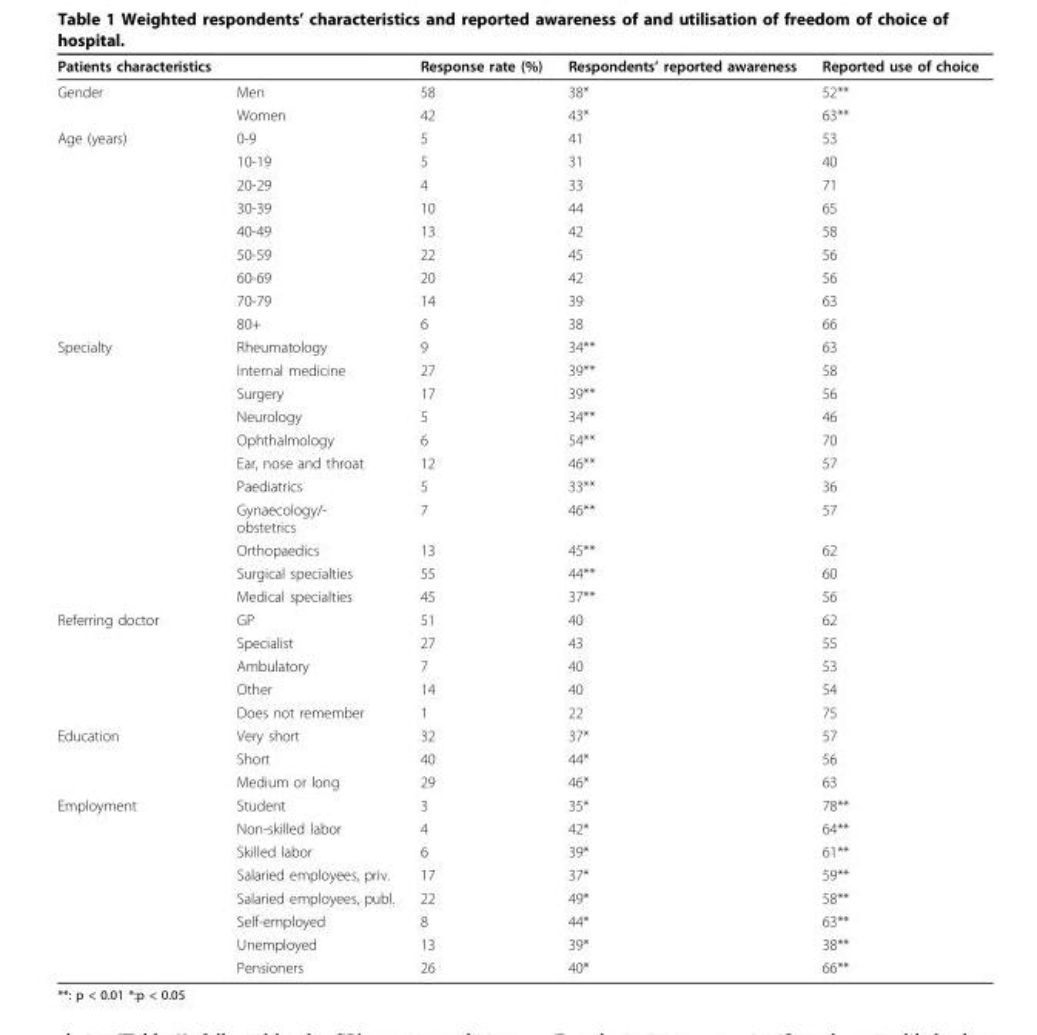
<table><thead><tr><td>Patients characteristics</td><td></td><td>Response rate (%)</td><td>Respondents’ reported awareness</td><td>Reported use of choice</td></tr></thead><tbody><tr><td rowspan="2">Gender</td><td>Men</td><td>58</td><td>38*</td><td>52**</td></tr><tr><td>Women</td><td>42</td><td>43*</td><td>63**</td></tr><tr><td rowspan="9">Age (years)</td><td>0-9</td><td>5</td><td>41</td><td>53</td></tr><tr><td>10-19</td><td>5</td><td>31</td><td>40</td></tr><tr><td>20-29</td><td>4</td><td>33</td><td>71</td></tr><tr><td>30-39</td><td>10</td><td>44</td><td>65</td></tr><tr><td>40-49</td><td>13</td><td>42</td><td>58</td></tr><tr><td>50-59</td><td>22</td><td>45</td><td>56</td></tr><tr><td>60-69</td><td>20</td><td>42</td><td>56</td></tr><tr><td>70-79</td><td>14</td><td>39</td><td>63</td></tr><tr><td>80+</td><td>6</td><td>38</td><td>66</td></tr><tr><td rowspan="11">Specialty</td><td>Rheumatology</td><td>9</td><td>34**</td><td>63</td></tr><tr><td>Internal medicine</td><td>27</td><td>39**</td><td>58</td></tr><tr><td>Surgery</td><td>17</td><td>39**</td><td>56</td></tr><tr><td>Neurology</td><td>5</td><td>34**</td><td>46</td></tr><tr><td>Ophthalmology</td><td>6</td><td>54**</td><td>70</td></tr><tr><td>Ear, nose and throat</td><td>12</td><td>46**</td><td>57</td></tr><tr><td>Paediatrics</td><td>5</td><td>33**</td><td>36</td></tr><tr><td>Gynaecology/- obstetrics</td><td>7</td><td>46**</td><td>57</td></tr><tr><td>Orthopaedics</td><td>13</td><td>45**</td><td>62</td></tr><tr><td>Surgical specialties</td><td>55</td><td>44**</td><td>60</td></tr><tr><td>Medical specialties</td><td>45</td><td>37**</td><td>56</td></tr><tr><td rowspan="5">Referring doctor</td><td>GP</td><td>51</td><td>40</td><td>62</td></tr><tr><td>Specialist</td><td>27</td><td>43</td><td>55</td></tr><tr><td>Ambulatory</td><td>7</td><td>40</td><td>53</td></tr><tr><td>Other</td><td>14</td><td>40</td><td>54</td></tr><tr><td>Does not remember</td><td>1</td><td>22</td><td>75</td></tr><tr><td rowspan="3">Education</td><td>Very short</td><td>32</td><td>37*</td><td>57</td></tr><tr><td>Short</td><td>40</td><td>44*</td><td>56</td></tr><tr><td>Medium or long</td><td>29</td><td>46*</td><td>63</td></tr><tr><td rowspan="8">Employment</td><td>Student</td><td>3</td><td>35*</td><td>78**</td></tr><tr><td>Non-skilled labor</td><td>4</td><td>42*</td><td>64**</td></tr><tr><td>Skilled labor</td><td>6</td><td>39*</td><td>61**</td></tr><tr><td>Salaried employees, priv.</td><td>17</td><td>37*</td><td>59**</td></tr><tr><td>Salaried employees, publ.</td><td>22</td><td>49*</td><td>58**</td></tr><tr><td>Self-employed</td><td>8</td><td>44*</td><td>63**</td></tr><tr><td>Unemployed</td><td>13</td><td>39*</td><td>38**</td></tr><tr><td>Pensioners</td><td>26</td><td>40*</td><td>66**</td></tr></tbody></table>